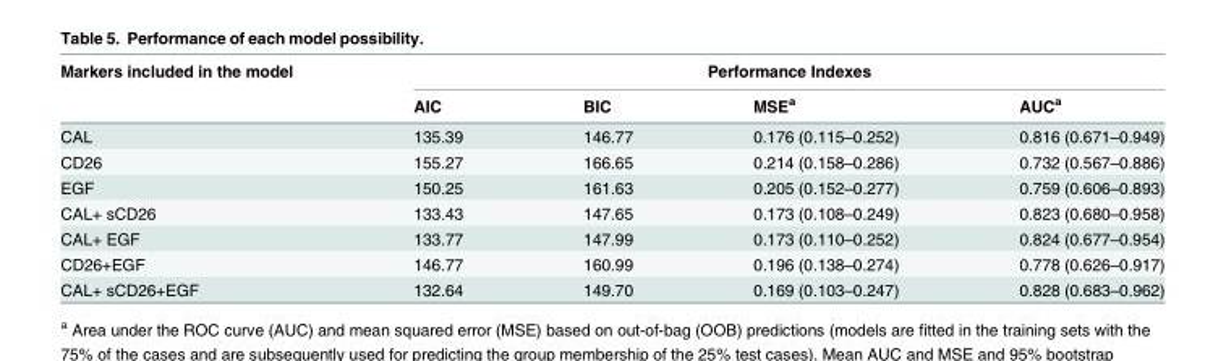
<table><thead><tr><td rowspan="2">Markers included in the model</td><td colspan="4">Performance Indexes</td></tr><tr><td>AIC</td><td>BIC</td><td>MSE<sup>a</sup></td><td>AUC<sup>a</sup></td></tr></thead><tbody><tr><td>CAL</td><td>135.39</td><td>146.77</td><td>0.176 (0.115–0.252)</td><td>0.816 (0.671–0.949)</td></tr><tr><td>CD26</td><td>155.27</td><td>166.65</td><td>0.214 (0.158–0.286)</td><td>0.732 (0.567–0.886)</td></tr><tr><td>EGF</td><td>150.25</td><td>161.63</td><td>0.205 (0.152–0.277)</td><td>0.759 (0.606–0.893)</td></tr><tr><td>CAL+ sCD26</td><td>133.43</td><td>147.65</td><td>0.173 (0.108–0.249)</td><td>0.823 (0.680–0.958)</td></tr><tr><td>CAL+ EGF</td><td>133.77</td><td>147.99</td><td>0.173 (0.110–0.252)</td><td>0.824 (0.677–0.954)</td></tr><tr><td>CD26+EGF</td><td>146.77</td><td>160.99</td><td>0.196 (0.138–0.274)</td><td>0.778 (0.626–0.917)</td></tr><tr><td>CAL+ sCD26+EGF</td><td>132.64</td><td>149.70</td><td>0.169 (0.103–0.247)</td><td>0.828 (0.683–0.962)</td></tr></tbody></table>